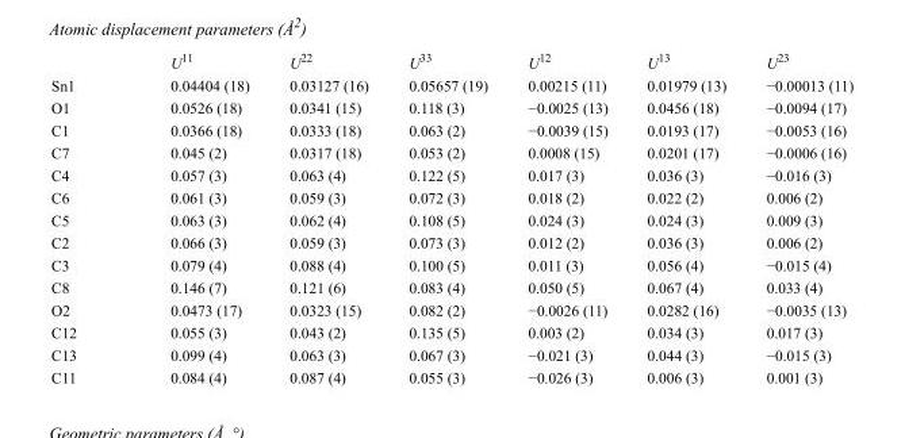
<table><thead><tr><td></td><td>U<sup>11</sup></td><td>U<sup>22</sup></td><td>U<sup>33</sup></td><td>U<sup>12</sup></td><td>U<sup>13</sup></td><td>U<sup>23</sup></td></tr></thead><tbody><tr><td>Sn1</td><td>0.04404 (18)</td><td>0.03127 (16)</td><td>0.05657 (19)</td><td>0.00215 (11)</td><td>0.01979 (13)</td><td>−0.00013 (11)</td></tr><tr><td>O1</td><td>0.0526 (18)</td><td>0.0341 (15)</td><td>0.118 (3)</td><td>−0.0025 (13)</td><td>0.0456 (18)</td><td>−0.0094 (17)</td></tr><tr><td>C1</td><td>0.0366 (18)</td><td>0.0333 (18)</td><td>0.063 (2)</td><td>−0.0039 (15)</td><td>0.0193 (17)</td><td>−0.0053 (16)</td></tr><tr><td>C7</td><td>0.045 (2)</td><td>0.0317 (18)</td><td>0.053 (2)</td><td>0.0008 (15)</td><td>0.0201 (17)</td><td>−0.0006 (16)</td></tr><tr><td>C4</td><td>0.057 (3)</td><td>0.063 (4)</td><td>0.122 (5)</td><td>0.017 (3)</td><td>0.036 (3)</td><td>−0.016 (3)</td></tr><tr><td>C6</td><td>0.061 (3)</td><td>0.059 (3)</td><td>0.072 (3)</td><td>0.018 (2)</td><td>0.022 (2)</td><td>0.006 (2)</td></tr><tr><td>C5</td><td>0.063 (3)</td><td>0.062 (4)</td><td>0.108 (5)</td><td>0.024 (3)</td><td>0.024 (3)</td><td>0.009 (3)</td></tr><tr><td>C2</td><td>0.066 (3)</td><td>0.059 (3)</td><td>0.073 (3)</td><td>0.012 (2)</td><td>0.036 (3)</td><td>0.006 (2)</td></tr><tr><td>C3</td><td>0.079 (4)</td><td>0.088 (4)</td><td>0.100 (5)</td><td>0.011 (3)</td><td>0.056 (4)</td><td>−0.015 (4)</td></tr><tr><td>C8</td><td>0.146 (7)</td><td>0.121 (6)</td><td>0.083 (4)</td><td>0.050 (5)</td><td>0.067 (4)</td><td>0.033 (4)</td></tr><tr><td>O2</td><td>0.0473 (17)</td><td>0.0323 (15)</td><td>0.082 (2)</td><td>−0.0026 (11)</td><td>0.0282 (16)</td><td>−0.0035 (13)</td></tr><tr><td>C12</td><td>0.055 (3)</td><td>0.043 (2)</td><td>0.135 (5)</td><td>0.003 (2)</td><td>0.034 (3)</td><td>0.017 (3)</td></tr><tr><td>C13</td><td>0.099 (4)</td><td>0.063 (3)</td><td>0.067 (3)</td><td>−0.021 (3)</td><td>0.044 (3)</td><td>−0.015 (3)</td></tr><tr><td>C11</td><td>0.084 (4)</td><td>0.087 (4)</td><td>0.055 (3)</td><td>−0.026 (3)</td><td>0.006 (3)</td><td>0.001 (3)</td></tr></tbody></table>